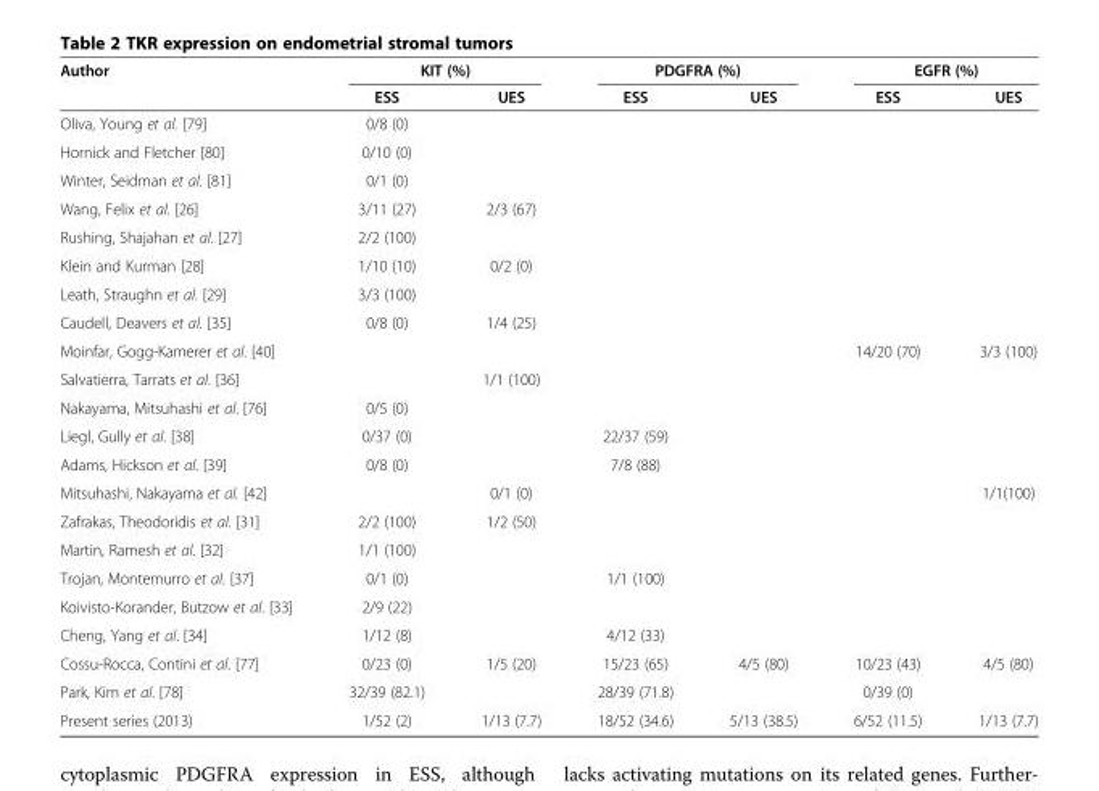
<table><thead><tr><td rowspan="2">Author</td><td colspan="2">KIT (%)</td><td colspan="2">PDGFRA (%)</td><td colspan="2">EGFR (%)</td></tr><tr><td>ESS</td><td>UES</td><td>ESS</td><td>UES</td><td>ESS</td><td>UES</td></tr></thead><tbody><tr><td>Oliva, Young et al. [79]</td><td>0/8 (0)</td><td></td><td></td><td></td><td></td><td></td></tr><tr><td>Hornick and Fletcher [80]</td><td>0/10 (0)</td><td></td><td></td><td></td><td></td><td></td></tr><tr><td>Winter, Seidman et al. [81]</td><td>0/1 (0)</td><td></td><td></td><td></td><td></td><td></td></tr><tr><td>Wang, Felix et al. [26]</td><td>3/11 (27)</td><td>2/3 (67)</td><td></td><td></td><td></td><td></td></tr><tr><td>Rushing, Shajahan et al. [27]</td><td>2/2 (100)</td><td></td><td></td><td></td><td></td><td></td></tr><tr><td>Klein and Kurman [28]</td><td>1/10 (10)</td><td>0/2 (0)</td><td></td><td></td><td></td><td></td></tr><tr><td>Leath, Straughn et al. [29]</td><td>3/3 (100)</td><td></td><td></td><td></td><td></td><td></td></tr><tr><td>Caudell, Deavers et al. [35]</td><td>0/8 (0)</td><td>1/4 (25)</td><td></td><td></td><td></td><td></td></tr><tr><td>Moinfar, Gogg-Kamerer et al. [40]</td><td></td><td></td><td></td><td></td><td>14/20 (70)</td><td>3/3 (100)</td></tr><tr><td>Salvatierra, Tarrats et al. [36]</td><td></td><td>1/1 (100)</td><td></td><td></td><td></td><td></td></tr><tr><td>Nakayama, Mitsuhashi et al. [76]</td><td>0/5 (0)</td><td></td><td></td><td></td><td></td><td></td></tr><tr><td>Liegl, Gully et al. [38]</td><td>0/37 (0)</td><td></td><td>22/37 (59)</td><td></td><td></td><td></td></tr><tr><td>Adams, Hickson et al. [39]</td><td>0/8 (0)</td><td></td><td>7/8 (88)</td><td></td><td></td><td></td></tr><tr><td>Mitsuhashi, Nakayama et al. [42]</td><td></td><td>0/1 (0)</td><td></td><td></td><td></td><td>1/1(100)</td></tr><tr><td>Zafrakas, Theodoridis et al. [31]</td><td>2/2 (100)</td><td>1/2 (50)</td><td></td><td></td><td></td><td></td></tr><tr><td>Martin, Ramesh et al. [32]</td><td>1/1 (100)</td><td></td><td></td><td></td><td></td><td></td></tr><tr><td>Trojan, Montemurro et al. [37]</td><td>0/1 (0)</td><td></td><td>1/1 (100)</td><td></td><td></td><td></td></tr><tr><td>Koivisto-Korander, Butzow et al. [33]</td><td>2/9 (22)</td><td></td><td></td><td></td><td></td><td></td></tr><tr><td>Cheng, Yang et al. [34]</td><td>1/12 (8)</td><td></td><td>4/12 (33)</td><td></td><td></td><td></td></tr><tr><td>Cossu-Rocca, Contini et al. [77]</td><td>0/23 (0)</td><td>1/5 (20)</td><td>15/23 (65)</td><td>4/5 (80)</td><td>10/23 (43)</td><td>4/5 (80)</td></tr><tr><td>Park, Kim et al. [78]</td><td>32/39 (82.1)</td><td></td><td>28/39 (71.8)</td><td></td><td>0/39 (0)</td><td></td></tr><tr><td>Present series (2013)</td><td>1/52 (2)</td><td>1/13 (7.7)</td><td>18/52 (34.6)</td><td>5/13 (38.5)</td><td>6/52 (11.5)</td><td>1/13 (7.7)</td></tr></tbody></table>